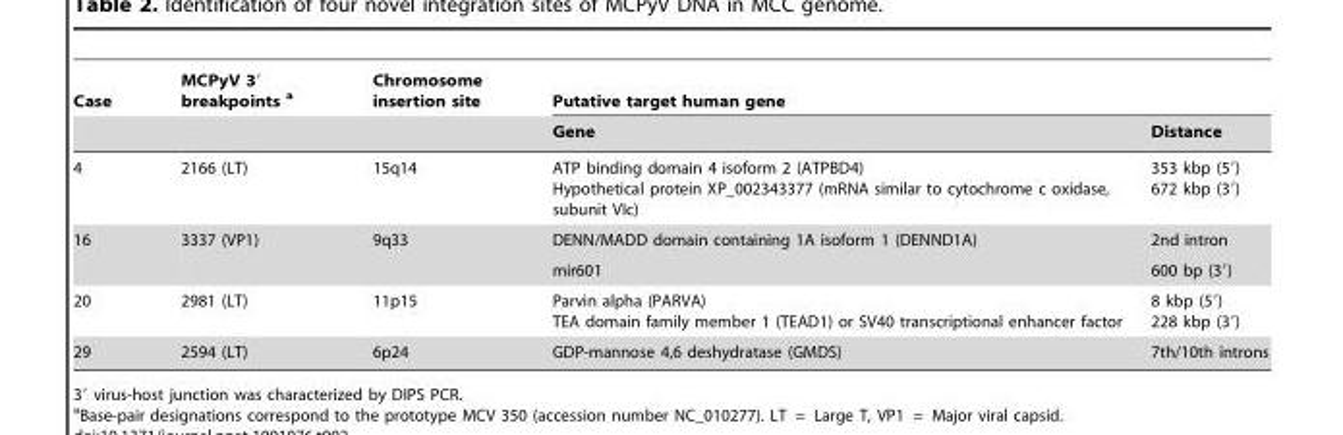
<table><thead><tr><td rowspan="2">Case</td><td rowspan="2">MCPyV 3′ breakpoints a</td><td rowspan="2">Chromosome insertion site</td><td colspan="2">Putative target human gene</td></tr><tr><td>Gene</td><td>Distance</td></tr></thead><tbody><tr><td>4</td><td>2166 (LT)</td><td>15q14</td><td>ATP binding domain 4 isoform 2 (ATPBD4) Hypothetical protein XP_002343377 (mRNA similar to cytochrome c oxidase, subunit VIc)</td><td>353 kbp (5′) 672 kbp (3′)</td></tr><tr><td>16</td><td>3337 (VP1)</td><td>9q33</td><td>DENN/MADD domain containing 1A isoform 1 (DENND1A) mir601</td><td>2nd intron 600 bp (3′)</td></tr><tr><td>20</td><td>2981 (LT)</td><td>11p15</td><td>Parvin alpha (PARVA) TEA domain family member 1 (TEAD1) or SV40 transcriptional enhancer factor</td><td>8 kbp (5′) 228 kbp (3′)</td></tr><tr><td>29</td><td>2594 (LT)</td><td>6p24</td><td>GDP-mannose 4,6 deshydratase (GMDS)</td><td>7th/10th introns</td></tr></tbody></table>